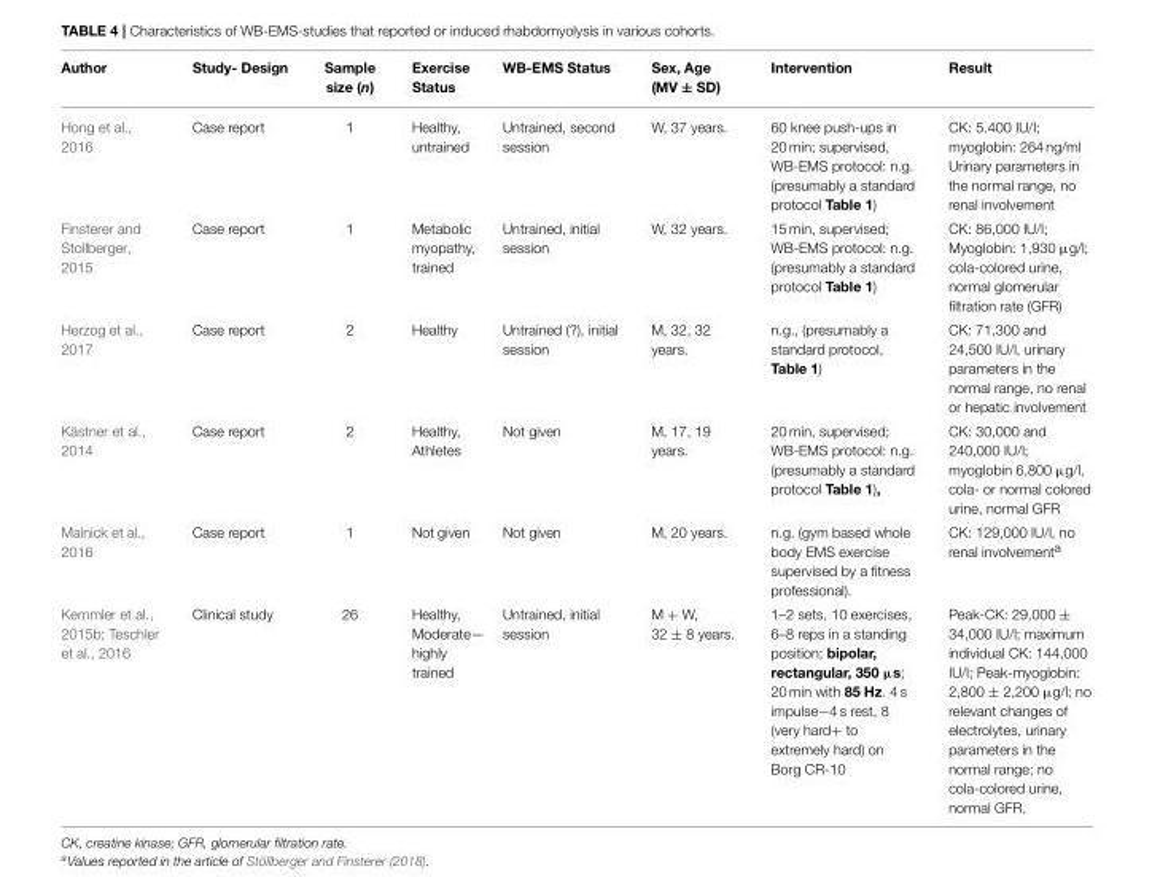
<table><thead><tr><td>Author</td><td>Study- Design</td><td>Sample size (n)</td><td>Exercise Status</td><td>WB-EMS Status</td><td>Sex, Age (MV ± SD)</td><td>Intervention</td><td>Result</td></tr></thead><tbody><tr><td>Hong et al., 2016</td><td>Case report</td><td>1</td><td>Healthy, untrained</td><td>Untrained, second session</td><td>W, 37 years.</td><td>60 knee push-ups in 20 min; supervised, WB-EMS protocol: n.g. (presumably a standard protocol Table 1)</td><td>CK: 5.400 IU/I; myoglobin: 264 ng/ml Urinary parameters in the normal range, no renal involvement</td></tr><tr><td>Finsterer and Stollberger, 2015</td><td>Case report</td><td>1</td><td>Metabolic myopathy, trained</td><td>Untrained, initial session</td><td>W, 32 years.</td><td>15 min, supervised; WB-EMS protocol: n.g. (presumably a standard protocol Table 1)</td><td>CK: 86,000 IU/l; Myoglobin: 1,930 µg/l; cola-colored urine, normal glomerular filtration rate (GFR)</td></tr><tr><td>Herzog et al., 2017</td><td>Case report</td><td>2</td><td>Healthy</td><td>Untrained (?), initial session</td><td>M, 32, 32 years.</td><td>n.g., (presumably a standard protocol, Table 1)</td><td>CK: 71,300 and 24,500 IU/l, urinary parameters in the normal range, no renal or hepatic involvement</td></tr><tr><td>Kästner et al., 2014</td><td>Case report</td><td>2</td><td>Healthy, Athletes</td><td>Not given</td><td>M, 17, 19 years.</td><td>20 min, supervised; WB-EMS protocol: n.g. (presumably a standard protocol Table 1),</td><td>CK: 30,000 and 240,000 IU/l; myoglobin 6,800 µg/l, cola- or normal colored urine, normal GFR</td></tr><tr><td>Malnick et al., 2016</td><td>Case report</td><td>1</td><td>Not given</td><td>Not given</td><td>M, 20 years.</td><td>n.g. (gym based whole body EMS exercise supervised by a fitness professional).</td><td>CK: 129,000 IU/l, no renal involvement<sup>a</sup></td></tr><tr><td>Kemmler et al., 2015b; Teschler et al., 2016</td><td>Clinical study</td><td>26</td><td>Healthy, Moderate— highly trained</td><td>Untrained, initial session</td><td>M + W, 32 ± 8 years.</td><td>1–2 sets, 10 exercises, 6–8 reps in a standing position; bipolar, rectangular, 350 µs; 20 min with 85 Hz. 4 s impulse−4 s rest, 8 (very hard+ to extremely hard) on Borg CR-10</td><td>Peak-CK: 29,000 ± 34,000 IU/l; maximum individual CK: 144,000 IU/l; Peak-myoglobin: 2,800 ± 2,200 µg/l; no relevant changes of electrolytes, urinary parameters in the normal range; no cola-colored urine, normal GFR.</td></tr></tbody></table>